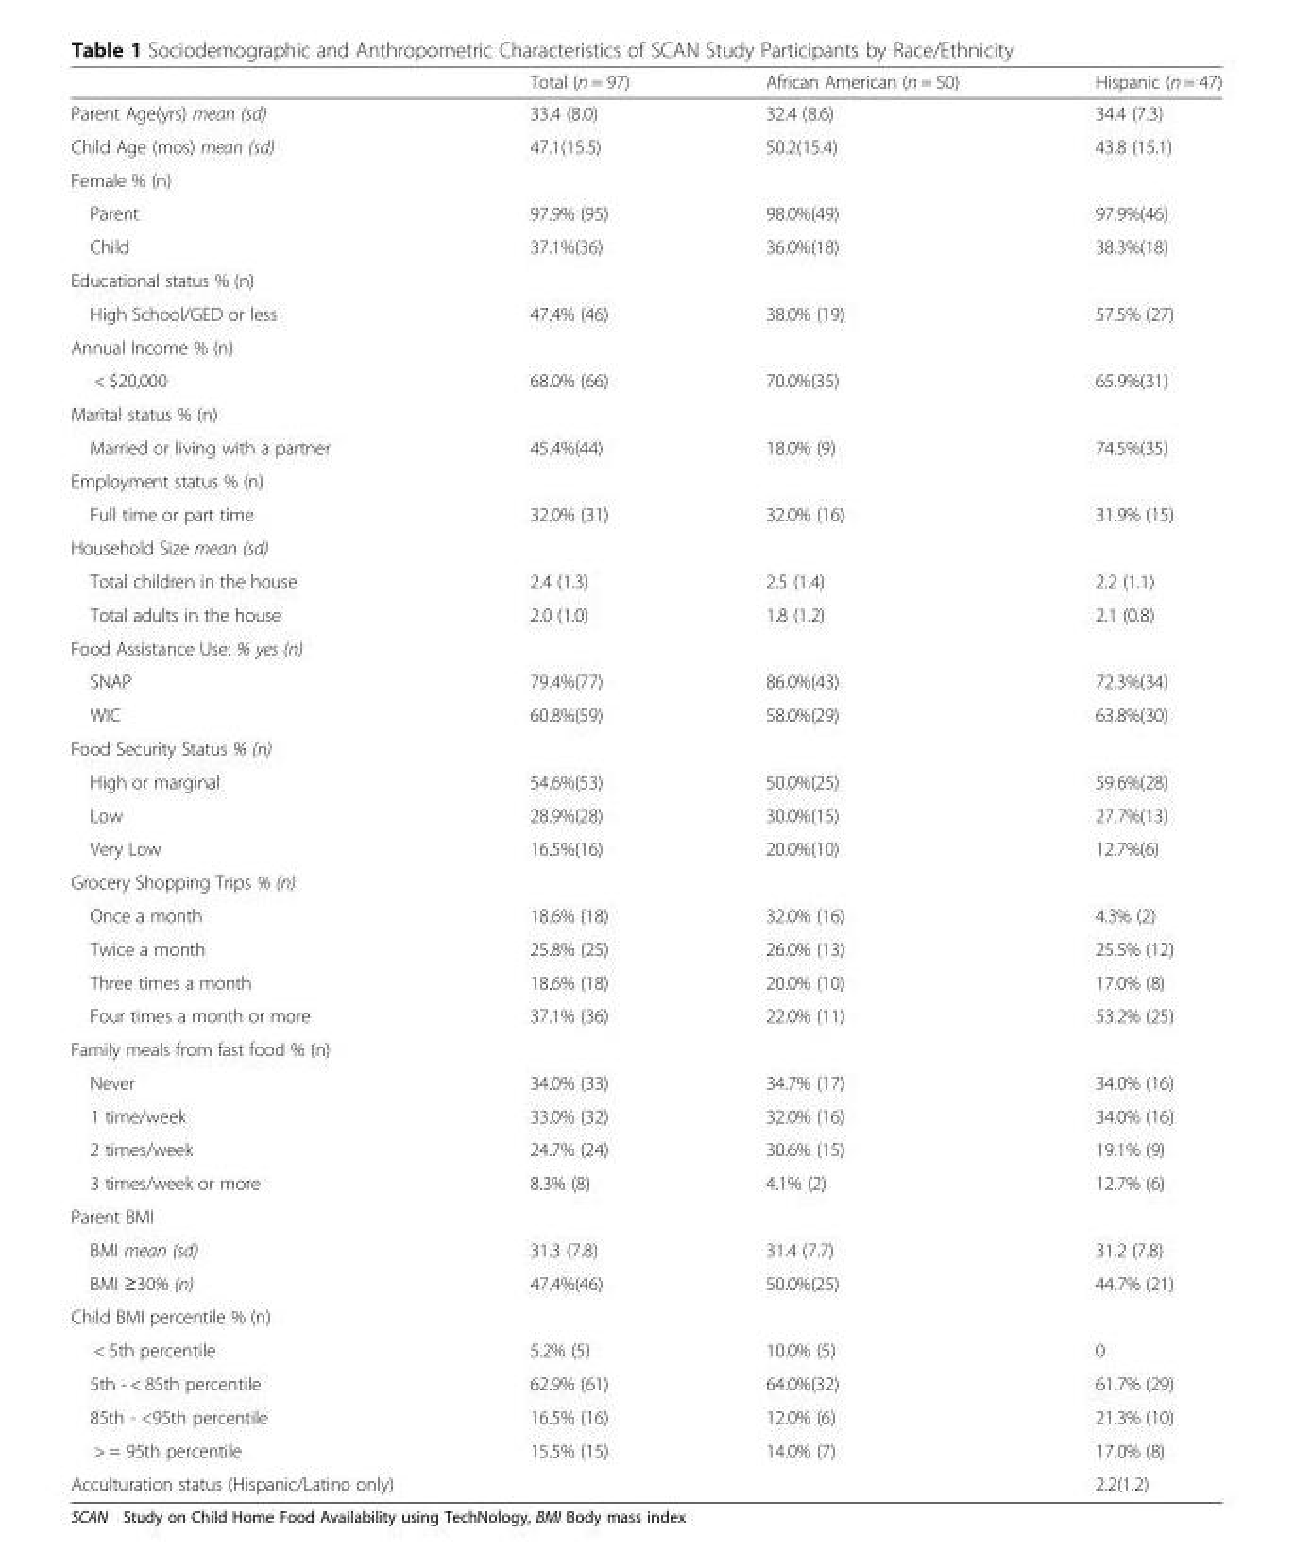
<table><thead><tr><td></td><td>Total (n = 97)</td><td>African American (n = 50)</td><td>Hispanic (n = 47)</td></tr></thead><tbody><tr><td>Parent Age(yrs) mean (sd)</td><td>33.4 (8.0)</td><td>32.4 (8.6)</td><td>34.4 (7.3)</td></tr><tr><td>Child Age (mos) mean (sd)</td><td>47.1(15.5)</td><td>50.2(15.4)</td><td>43.8 (15.1)</td></tr><tr><td colspan="4">Female % (n)</td></tr><tr><td>Parent</td><td>97.9% (95)</td><td>98.0%(49)</td><td>97.9%(46)</td></tr><tr><td>Child</td><td>37.1%(36)</td><td>36.0%(18)</td><td>38.3%(18)</td></tr><tr><td colspan="4">Educational status % (n)</td></tr><tr><td>High School/GED or less</td><td>47.4% (46)</td><td>38.0% (19)</td><td>57.5% (27)</td></tr><tr><td colspan="4">Annual Income % (n)</td></tr><tr><td>&lt; $20,000</td><td>68.0% (66)</td><td>70.0%(35)</td><td>65.9%(31)</td></tr><tr><td colspan="4">Marital status % (n)</td></tr><tr><td>Married or living with a partner</td><td>45.4%(44)</td><td>18.0% (9)</td><td>74.5%(35)</td></tr><tr><td colspan="4">Employment status % (n)</td></tr><tr><td>Full time or part time</td><td>32.0% (31)</td><td>32.0% (16)</td><td>31.9% (15)</td></tr><tr><td colspan="4">Household Size mean (sd)</td></tr><tr><td>Total children in the house</td><td>2.4 (1.3)</td><td>2.5 (1.4)</td><td>2.2 (1.1)</td></tr><tr><td>Total adults in the house</td><td>2.0 (1.0)</td><td>1.8 (1.2)</td><td>2.1 (0.8)</td></tr><tr><td colspan="4">Food Assistance Use: % yes (n)</td></tr><tr><td>SNAP</td><td>79.4%(77)</td><td>86.0%(43)</td><td>72.3%(34)</td></tr><tr><td>WIC</td><td>60.8%(59)</td><td>58.0%(29)</td><td>63.8%(30)</td></tr><tr><td colspan="4">Food Security Status % (n)</td></tr><tr><td>High or marginal</td><td>54.6%(53)</td><td>50.0%(25)</td><td>59.6%(28)</td></tr><tr><td>Low</td><td>28.9%(28)</td><td>30.0%(15)</td><td>27.7%(13)</td></tr><tr><td>Very Low</td><td>16.5%(16)</td><td>20.0%(10)</td><td>12.7%(6)</td></tr><tr><td colspan="4">Grocery Shopping Trips % (n)</td></tr><tr><td>Once a month</td><td>18.6% (18)</td><td>32.0% (16)</td><td>4.3% (2)</td></tr><tr><td>Twice a month</td><td>25.8% (25)</td><td>26.0% (13)</td><td>25.5% (12)</td></tr><tr><td>Three times a month</td><td>18.6% (18)</td><td>20.0% (10)</td><td>17.0% (8)</td></tr><tr><td>Four times a month or more</td><td>37.1% (36)</td><td>22.0% (11)</td><td>53.2% (25)</td></tr><tr><td colspan="4">Family meals from fast food % (n)</td></tr><tr><td>Never</td><td>34.0% (33)</td><td>34.7% (17)</td><td>34.0% (16)</td></tr><tr><td>1 time/week</td><td>33.0% (32)</td><td>32.0% (16)</td><td>34.0% (16)</td></tr><tr><td>2 times/week</td><td>24.7% (24)</td><td>30.6% (15)</td><td>19.1% (9)</td></tr><tr><td>3 times/week or more</td><td>8.3% (8)</td><td>4.1% (2)</td><td>12.7% (6)</td></tr><tr><td colspan="4">Parent BMI</td></tr><tr><td>BMI mean (sd)</td><td>31.3 (7.8)</td><td>31.4 (7.7)</td><td>31.2 (7.8)</td></tr><tr><td>BMI ≥30% (n)</td><td>47.4%(46)</td><td>50.0%(25)</td><td>44.7% (21)</td></tr><tr><td colspan="4">Child BMI percentile % (n)</td></tr><tr><td>&lt; 5th percentile</td><td>5.2% (5)</td><td>10.0% (5)</td><td>0</td></tr><tr><td>5th - &lt; 85th percentile</td><td>62.9% (61)</td><td>64.0%(32)</td><td>61.7% (29)</td></tr><tr><td>85th - &lt;95th percentile</td><td>16.5% (16)</td><td>12.0% (6)</td><td>21.3% (10)</td></tr><tr><td>&gt; = 95th percentile</td><td>15.5% (15)</td><td>14.0% (7)</td><td>17.0% (8)</td></tr><tr><td>Acculturation status (Hispanic/Latino only)</td><td></td><td></td><td>2.2(1.2)</td></tr></tbody></table>